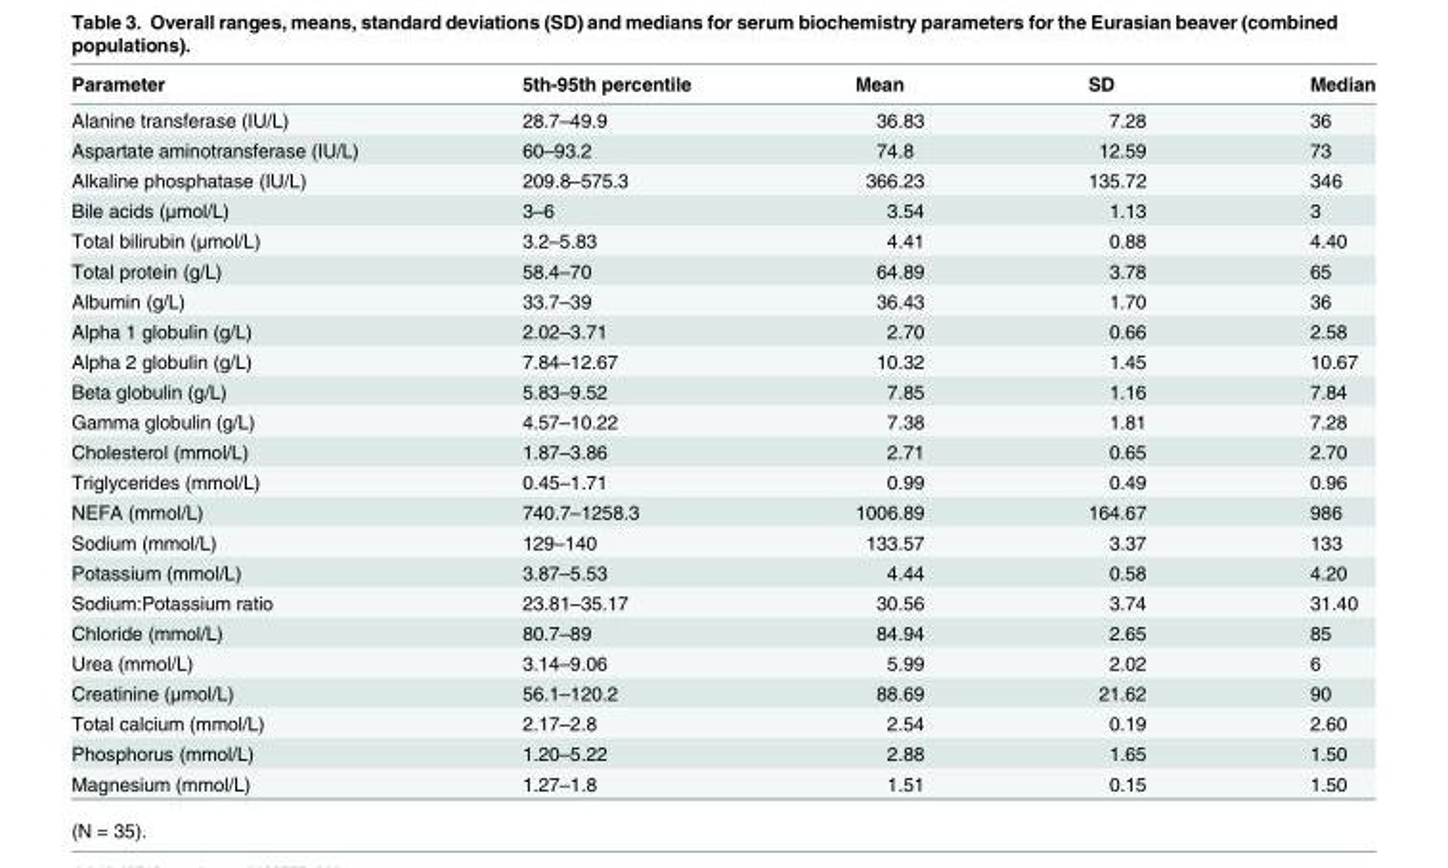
<table><thead><tr><td>Parameter</td><td>5th-95th percentile</td><td>Mean</td><td>SD</td><td>Median</td></tr></thead><tbody><tr><td>Alanine transferase (IU/L)</td><td>28.7–49.9</td><td>36.83</td><td>7.28</td><td>36</td></tr><tr><td>Aspartate aminotransferase (IU/L)</td><td>60–93.2</td><td>74.8</td><td>12.59</td><td>73</td></tr><tr><td>Alkaline phosphatase (IU/L)</td><td>209.8–575.3</td><td>366.23</td><td>135.72</td><td>346</td></tr><tr><td>Bile acids (μmol/L)</td><td>3–6</td><td>3.54</td><td>1.13</td><td>3</td></tr><tr><td>Total bilirubin (μmol/L)</td><td>3.2–5.83</td><td>4.41</td><td>0.88</td><td>4.40</td></tr><tr><td>Total protein (g/L)</td><td>58.4–70</td><td>64.89</td><td>3.78</td><td>65</td></tr><tr><td>Albumin (g/L)</td><td>33.7–39</td><td>36.43</td><td>1.70</td><td>36</td></tr><tr><td>Alpha 1 globulin (g/L)</td><td>2.02–3.71</td><td>2.70</td><td>0.66</td><td>2.58</td></tr><tr><td>Alpha 2 globulin (g/L)</td><td>7.84–12.67</td><td>10.32</td><td>1.45</td><td>10.67</td></tr><tr><td>Beta globulin (g/L)</td><td>5.83–9.52</td><td>7.85</td><td>1.16</td><td>7.84</td></tr><tr><td>Gamma globulin (g/L)</td><td>4.57–10.22</td><td>7.38</td><td>1.81</td><td>7.28</td></tr><tr><td>Cholesterol (mmol/L)</td><td>1.87–3.86</td><td>2.71</td><td>0.65</td><td>2.70</td></tr><tr><td>Triglycerides (mmol/L)</td><td>0.45–1.71</td><td>0.99</td><td>0.49</td><td>0.96</td></tr><tr><td>NEFA (mmol/L)</td><td>740.7–1258.3</td><td>1006.89</td><td>164.67</td><td>986</td></tr><tr><td>Sodium (mmol/L)</td><td>129–140</td><td>133.57</td><td>3.37</td><td>133</td></tr><tr><td>Potassium (mmol/L)</td><td>3.87–5.53</td><td>4.44</td><td>0.58</td><td>4.20</td></tr><tr><td>Sodium:Potassium ratio</td><td>23.81–35.17</td><td>30.56</td><td>3.74</td><td>31.40</td></tr><tr><td>Chloride (mmol/L)</td><td>80.7–89</td><td>84.94</td><td>2.65</td><td>85</td></tr><tr><td>Urea (mmol/L)</td><td>3.14–9.06</td><td>5.99</td><td>2.02</td><td>6</td></tr><tr><td>Creatinine (μmol/L)</td><td>56.1–120.2</td><td>88.69</td><td>21.62</td><td>90</td></tr><tr><td>Total calcium (mmol/L)</td><td>2.17–2.8</td><td>2.54</td><td>0.19</td><td>2.60</td></tr><tr><td>Phosphorus (mmol/L)</td><td>1.20–5.22</td><td>2.88</td><td>1.65</td><td>1.50</td></tr><tr><td>Magnesium (mmol/L)</td><td>1.27–1.8</td><td>1.51</td><td>0.15</td><td>1.50</td></tr></tbody></table>